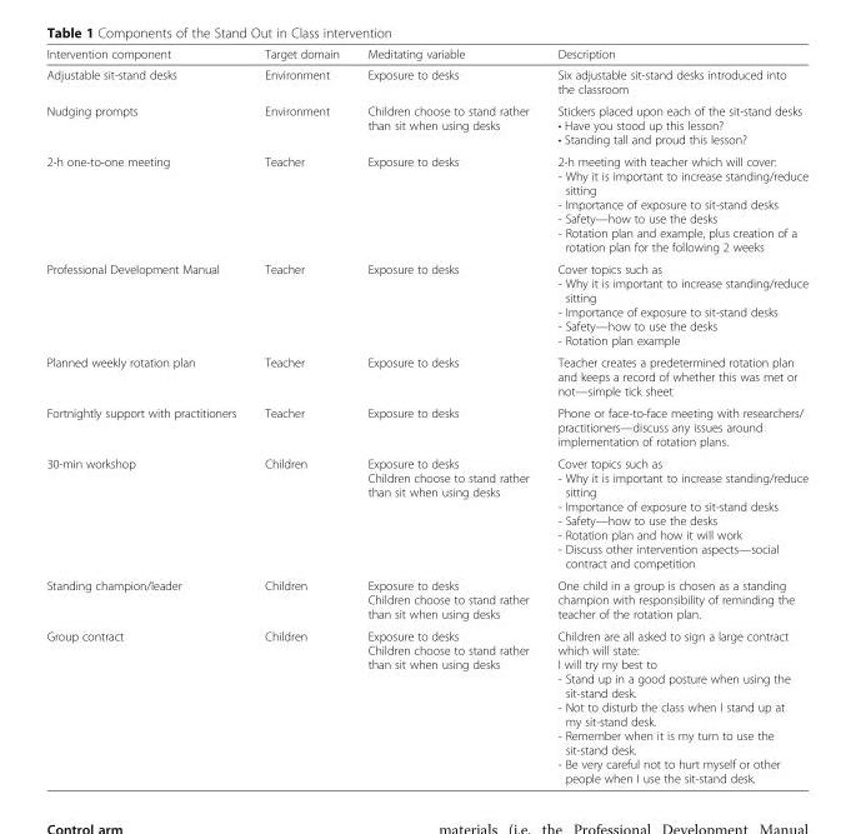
<table><thead><tr><td>Intervention component</td><td>Target domain</td><td>Meditating variable</td><td>Description</td></tr></thead><tbody><tr><td>Adjustable sit-stand desks</td><td>Environment</td><td>Exposure to desks</td><td>Six adjustable sit-stand desks introduced into the classroom</td></tr><tr><td>Nudging prompts</td><td>Environment</td><td>Children choose to stand rather than sit when using desks</td><td>Stickers placed upon each of the sit-stand desks • Have you stood up this lesson? • Standing tall and proud this lesson?</td></tr><tr><td>2-h one-to-one meeting</td><td>Teacher</td><td>Exposure to desks</td><td>2-h meeting with teacher which will cover: - Why it is important to increase standing/reduce sitting - Importance of exposure to sit-stand desks - Safety—how to use the desks - Rotation plan and example, plus creation of a rotation plan for the following 2 weeks</td></tr><tr><td>Professional Development Manual</td><td>Teacher</td><td>Exposure to desks</td><td>Cover topics such as - Why it is important to increase standing/reduce sitting - Importance of exposure to sit-stand desks - Safety—how to use the desks - Rotation plan example</td></tr><tr><td>Planned weekly rotation plan</td><td>Teacher</td><td>Exposure to desks</td><td>Teacher creates a predetermined rotation plan and keeps a record of whether this was met or not—simple tick sheet</td></tr><tr><td>Fortnightly support with practitioners</td><td>Teacher</td><td>Exposure to desks</td><td>Phone or face-to-face meeting with researchers/ practitioners—discuss any issues around implementation of rotation plans.</td></tr><tr><td>30-min workshop</td><td>Children</td><td>Exposure to desks Children choose to stand rather than sit when using desks</td><td>Cover topics such as - Why it is important to increase standing/reduce sitting - Importance of exposure to sit-stand desks - Safety—how to use the desks - Rotation plan and how it will work - Discuss other intervention aspects—social contract and competition</td></tr><tr><td>Standing champion/leader</td><td>Children</td><td>Exposure to desks Children choose to stand rather than sit when using desks</td><td>One child in a group is chosen as a standing champion with responsibility of reminding the teacher of the rotation plan.</td></tr><tr><td>Group contract</td><td>Children</td><td>Exposure to desks Children choose to stand rather than sit when using desks</td><td>Children are all asked to sign a large contract which will state: I will try my best to - Stand up in a good posture when using the sit-stand desk. - Not to disturb the class when I stand up at my sit-stand desk. - Remember when it is my turn to use the sit-stand desk. - Be very careful not to hurt myself or other people when I use the sit-stand desk.</td></tr></tbody></table>